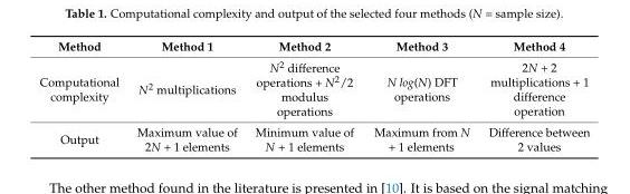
<table><thead><tr><td>Method</td><td>Method 1</td><td>Method 2</td><td>Method 3</td><td>Method 4</td></tr></thead><tbody><tr><td>Computational complexity</td><td>N<sup>2</sup> multiplications</td><td>N<sup>2</sup> difference operations + N<sup>2</sup>/2 modulus operations</td><td>N log(N) DFT operations</td><td>2N + 2 multiplications + 1 difference operation</td></tr><tr><td>Output</td><td>Maximum value of 2N + 1 elements</td><td>Minimum value of N + 1 elements</td><td>Maximum from N + 1 elements</td><td>Difference between 2 values</td></tr></tbody></table>